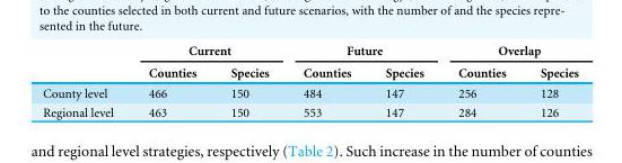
<table><thead><tr><td rowspan="2"></td><td colspan="2">Current</td><td colspan="2">Future</td><td colspan="2">Overlap</td></tr><tr><td>Counties</td><td>Species</td><td>Counties</td><td>Species</td><td>Counties</td><td>Species</td></tr></thead><tbody><tr><td>County level</td><td>466</td><td>150</td><td>484</td><td>147</td><td>256</td><td>128</td></tr><tr><td>Regional level</td><td>463</td><td>150</td><td>553</td><td>147</td><td>284</td><td>126</td></tr></tbody></table>